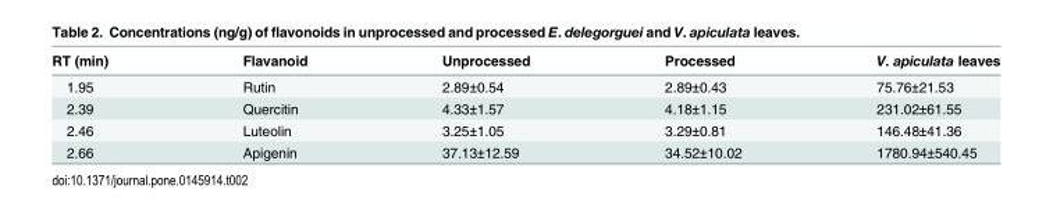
<table><thead><tr><td>RT (min)</td><td>Flavanoid</td><td>Unprocessed</td><td>Processed</td><td>V. apiculata leaves</td></tr></thead><tbody><tr><td>1.95</td><td>Rutin</td><td>2.89±0.54</td><td>2.89±0.43</td><td>75.76±21.53</td></tr><tr><td>2.39</td><td>Quercitin</td><td>4.33±1.57</td><td>4.18±1.15</td><td>231.02±61.55</td></tr><tr><td>2.46</td><td>Luteolin</td><td>3.25±1.05</td><td>3.29±0.81</td><td>146.48±41.36</td></tr><tr><td>2.66</td><td>Apigenin</td><td>37.13±12.59</td><td>34.52±10.02</td><td>1780.94±540.45</td></tr></tbody></table>